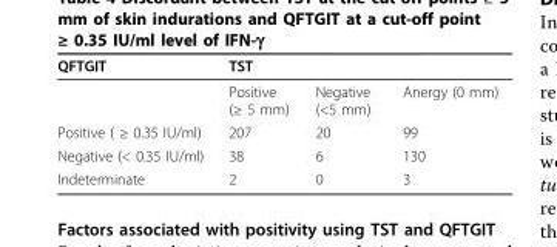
<table><thead><tr><td>QFTGIT</td><td>TST</td><td></td><td></td></tr></thead><tbody><tr><td></td><td>Positive (≥ 5 mm)</td><td>Negative (&lt;5 mm)</td><td>Anergy (0 mm)</td></tr><tr><td>Positive ( ≥ 0.35 IU/ml)</td><td>207</td><td>20</td><td>99</td></tr><tr><td>Negative (&lt; 0.35 IU/ml)</td><td>38</td><td>6</td><td>130</td></tr><tr><td>Indeterminate</td><td>2</td><td>0</td><td>3</td></tr></tbody></table>